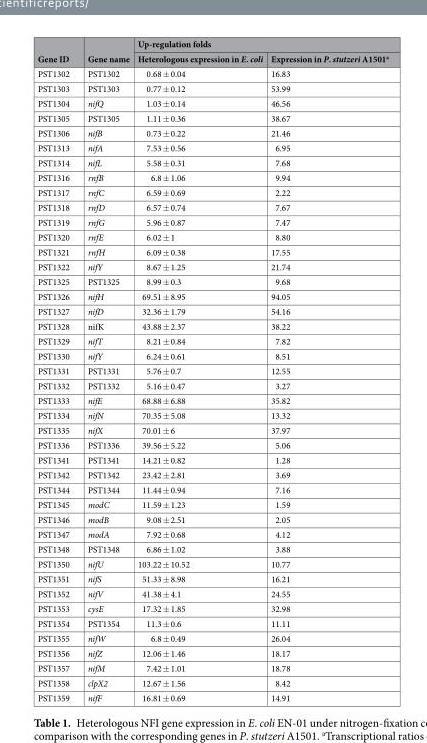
<table><thead><tr><td rowspan="2">Gene ID</td><td rowspan="2">Gene name</td><td colspan="2">Up-regulation folds</td></tr><tr><td>Heterologous expression in E. coli</td><td>Expression in P. stutzeri A1501<sup>a</sup></td></tr></thead><tbody><tr><td>PST1302</td><td>PST1302</td><td>0.68 ± 0.04</td><td>16.83</td></tr><tr><td>PST1303</td><td>PST1303</td><td>0.77 ± 0.12</td><td>53.99</td></tr><tr><td>PST1304</td><td>nifQ</td><td>1.03 ± 0.14</td><td>46.56</td></tr><tr><td>PST1305</td><td>PST1305</td><td>1.11 ± 0.36</td><td>38.67</td></tr><tr><td>PST1306</td><td>nifB</td><td>0.73 ± 0.22</td><td>21.46</td></tr><tr><td>PST1313</td><td>nifA</td><td>7.53 ± 0.56</td><td>6.95</td></tr><tr><td>PST1314</td><td>nifL</td><td>5.58 ± 0.31</td><td>7.68</td></tr><tr><td>PST1316</td><td>rnfB</td><td>6.8 ± 1.06</td><td>9.94</td></tr><tr><td>PST1317</td><td>rnfC</td><td>6.59 ± 0.69</td><td>2.22</td></tr><tr><td>PST1318</td><td>rnfD</td><td>6.57 ± 0.74</td><td>7.67</td></tr><tr><td>PST1319</td><td>rnfG</td><td>5.96 ± 0.87</td><td>7.47</td></tr><tr><td>PST1320</td><td>rnfE</td><td>6.02 ± 1</td><td>8.80</td></tr><tr><td>PST1321</td><td>rnfH</td><td>6.09 ± 0.38</td><td>17.55</td></tr><tr><td>PST1322</td><td>nifY</td><td>8.67 ± 1.25</td><td>21.74</td></tr><tr><td>PST1325</td><td>PST1325</td><td>8.99 ± 0.3</td><td>9.68</td></tr><tr><td>PST1326</td><td>nifH</td><td>69.51 ± 8.95</td><td>94.05</td></tr><tr><td>PST1327</td><td>nifD</td><td>32.36 ± 1.79</td><td>54.16</td></tr><tr><td>PST1328</td><td>nifK</td><td>43.88 ± 2.37</td><td>38.22</td></tr><tr><td>PST1329</td><td>nifT</td><td>8.21 ± 0.84</td><td>7.82</td></tr><tr><td>PST1330</td><td>nifY</td><td>6.24 ± 0.61</td><td>8.51</td></tr><tr><td>PST1331</td><td>PST1331</td><td>5.76 ± 0.7</td><td>12.55</td></tr><tr><td>PST1332</td><td>PST1332</td><td>5.16 ± 0.47</td><td>3.27</td></tr><tr><td>PST1333</td><td>nifE</td><td>68.88 ± 6.88</td><td>35.82</td></tr><tr><td>PST1334</td><td>nifN</td><td>70.35 ± 5.08</td><td>13.32</td></tr><tr><td>PST1335</td><td>nifX</td><td>70.01 ± 6</td><td>37.97</td></tr><tr><td>PST1336</td><td>PST1336</td><td>39.56 ± 5.22</td><td>5.06</td></tr><tr><td>PST1341</td><td>PST1341</td><td>14.21 ± 0.82</td><td>1.28</td></tr><tr><td>PST1342</td><td>PST1342</td><td>23.42 ± 2.81</td><td>3.69</td></tr><tr><td>PST1344</td><td>PST1344</td><td>11.44 ± 0.94</td><td>7.16</td></tr><tr><td>PST1345</td><td>modC</td><td>11.59 ± 1.23</td><td>1.59</td></tr><tr><td>PST1346</td><td>modB</td><td>9.08 ± 2.51</td><td>2.05</td></tr><tr><td>PST1347</td><td>modA</td><td>7.92 ± 0.68</td><td>4.12</td></tr><tr><td>PST1348</td><td>PST1348</td><td>6.86 ± 1.02</td><td>3.88</td></tr><tr><td>PST1350</td><td>nifU</td><td>103.22 ± 10.52</td><td>10.77</td></tr><tr><td>PST1351</td><td>nifS</td><td>51.33 ± 8.98</td><td>16.21</td></tr><tr><td>PST1352</td><td>nifV</td><td>41.38 ± 4.1</td><td>24.55</td></tr><tr><td>PST1353</td><td>cysE</td><td>17.32 ± 1.85</td><td>32.98</td></tr><tr><td>PST1354</td><td>PST1354</td><td>11.3 ± 0.6</td><td>11.11</td></tr><tr><td>PST1355</td><td>nifW</td><td>6.8 ± 0.49</td><td>26.04</td></tr><tr><td>PST1356</td><td>nifZ</td><td>12.06 ± 1.46</td><td>18.17</td></tr><tr><td>PST1357</td><td>nifM</td><td>7.42 ± 1.01</td><td>18.78</td></tr><tr><td>PST1358</td><td>clpX2</td><td>12.67 ± 1.56</td><td>8.42</td></tr><tr><td>PST1359</td><td>nifF</td><td>16.81 ± 0.69</td><td>14.91</td></tr></tbody></table>